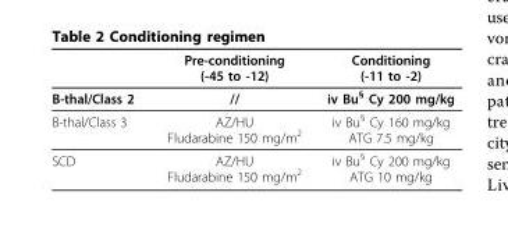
<table><thead><tr><td></td><td>Pre-conditioning (-45 to -12)</td><td>Conditioning (-11 to -2)</td></tr></thead><tbody><tr><td>B-thal/Class 2</td><td>//</td><td>iv Bu<sup>§</sup> Cy 200 mg/kg</td></tr><tr><td>B-thal/Class 3</td><td>AZ/HU Fludarabine 150 mg/m<sup>2</sup></td><td>iv Bu<sup>§</sup> Cy 160 mg/kg ATG 7.5 mg/kg</td></tr><tr><td>SCD</td><td>AZ/HU Fludarabine 150 mg/m<sup>2</sup></td><td>iv Bu<sup>§</sup> Cy 200 mg/kg ATG 10 mg/kg</td></tr></tbody></table>